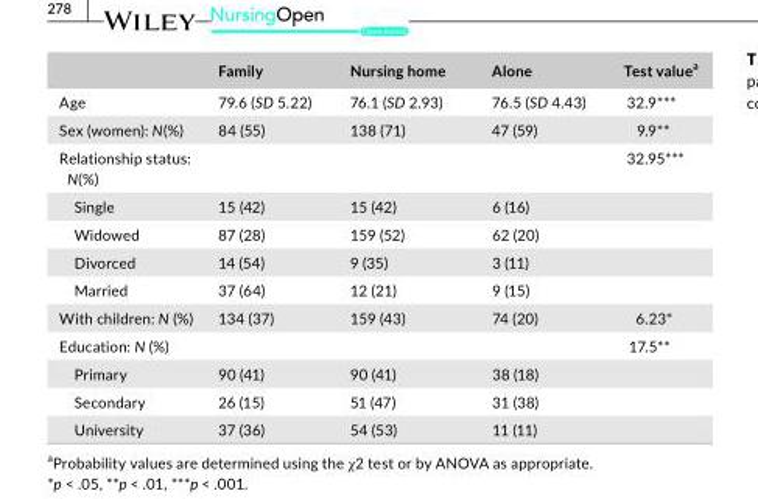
<table><thead><tr><td></td><td>Family</td><td>Nursing home</td><td>Alone</td><td>Test value<sup>a</sup></td></tr></thead><tbody><tr><td>Age</td><td>79.6 (SD 5.22)</td><td>76.1 (SD 2.93)</td><td>76.5 (SD 4.43)</td><td>32.9***</td></tr><tr><td>Sex (women): N(%)</td><td>84 (55)</td><td>138 (71)</td><td>47 (59)</td><td>9.9**</td></tr><tr><td>Relationship status: N(%)</td><td></td><td></td><td></td><td>32.95***</td></tr><tr><td>Single</td><td>15 (42)</td><td>15 (42)</td><td>6 (16)</td><td></td></tr><tr><td>Widowed</td><td>87 (28)</td><td>159 (52)</td><td>62 (20)</td><td></td></tr><tr><td>Divorced</td><td>14 (54)</td><td>9 (35)</td><td>3 (11)</td><td></td></tr><tr><td>Married</td><td>37 (64)</td><td>12 (21)</td><td>9 (15)</td><td></td></tr><tr><td>With children: N (%)</td><td>134 (37)</td><td>159 (43)</td><td>74 (20)</td><td>6.23*</td></tr><tr><td>Education: N (%)</td><td></td><td></td><td></td><td>17.5**</td></tr><tr><td>Primary</td><td>90 (41)</td><td>90 (41)</td><td>38 (18)</td><td></td></tr><tr><td>Secondary</td><td>26 (15)</td><td>51 (47)</td><td>31 (38)</td><td></td></tr><tr><td>University</td><td>37 (36)</td><td>54 (53)</td><td>11 (11)</td><td></td></tr></tbody></table>